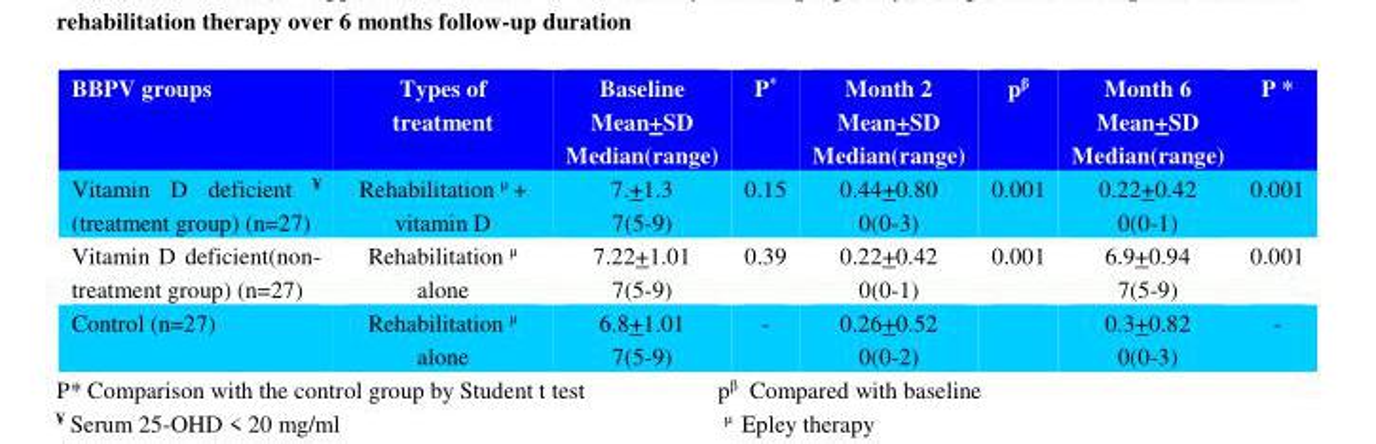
<table><thead><tr><td>BBPV groups</td><td>Types of treatment</td><td>Baseline Mean+SD Median(range)</td><td>P*</td><td>Month 2 Mean+SD Median(range)</td><td>pβ</td><td>Month 6 Mean+SD Median(range)</td><td>P *</td></tr></thead><tbody><tr><td>Vitamin D deficient ¥ (treatment group) (n=27)</td><td>Rehabilitation µ + vitamin D</td><td>7.+1.3 7(5-9)</td><td>0.15</td><td>0.44+0.80 0(0-3)</td><td>0.001</td><td>0.22+0.42 0(0-1)</td><td>0.001</td></tr><tr><td>Vitamin D deficient(non- treatment group) (n=27)</td><td>Rehabilitation µ alone</td><td>7.22+1.01 7(5-9)</td><td>0.39</td><td>0.22+0.42 0(0-1)</td><td>0.001</td><td>6.9+0.94 7(5-9)</td><td>0.001</td></tr><tr><td>Control (n=27)</td><td>Rehabilitation µ alone</td><td>6.8+1.01 7(5-9)</td><td>-</td><td>0.26+0.52 0(0-2)</td><td></td><td>0.3+0.82 0(0-3)</td><td>-</td></tr></tbody></table>